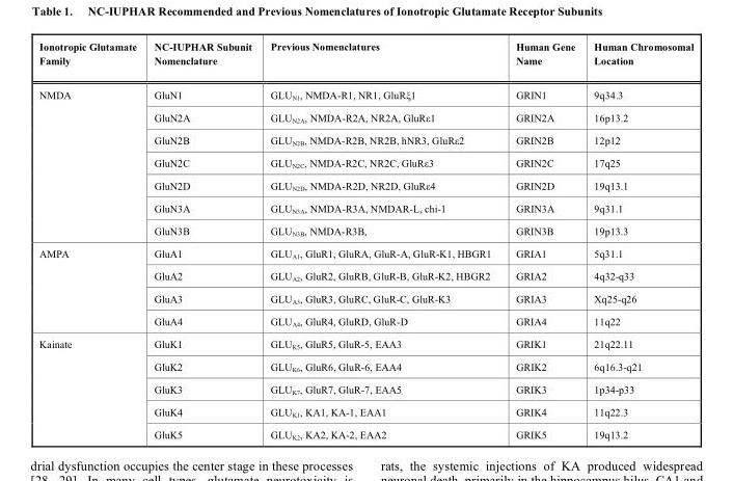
<table><thead><tr><td>Ionotropic Glutamate Family</td><td>NC-IUPHAR Subunit Nomenclature</td><td>Previous Nomenclatures</td><td>Human Gene Name</td><td>Human Chromosomal Location</td></tr></thead><tbody><tr><td rowspan="7">NMDA</td><td>GluN1</td><td>GLU<sub>N1</sub>, NMDA-R1, NR1, GluRξ1</td><td>GRIN1</td><td>9q34.3</td></tr><tr><td>GluN2A</td><td>GLU<sub>N2A</sub>, NMDA-R2A, NR2A, GluRε1</td><td>GRIN2A</td><td>16p13.2</td></tr><tr><td>GluN2B</td><td>GLU<sub>N2B</sub>, NMDA-R2B, NR2B, hNR3, GluRε2</td><td>GRIN2B</td><td>12p12</td></tr><tr><td>GluN2C</td><td>GLU<sub>N2C</sub>, NMDA-R2C, NR2C, GluRε3</td><td>GRIN2C</td><td>17q25</td></tr><tr><td>GluN2D</td><td>GLU<sub>N2D</sub>, NMDA-R2D, NR2D, GluRε4</td><td>GRIN2D</td><td>19q13.1</td></tr><tr><td>GluN3A</td><td>GLU<sub>N3A</sub>, NMDA-R3A, NMDAR-L, chi-1</td><td>GRIN3A</td><td>9q31.1</td></tr><tr><td>GluN3B</td><td>GLU<sub>N3B</sub>, NMDA-R3B,</td><td>GRIN3B</td><td>19p13.3</td></tr><tr><td rowspan="4">AMPA</td><td>GluA1</td><td>GLU<sub>A1</sub>, GluR1, GluRA, GluR-A, GluR-K1, HBGR1</td><td>GRIA1</td><td>5q31.1</td></tr><tr><td>GluA2</td><td>GLU<sub>A2</sub>, GluR2, GluRB, GluR-B, GluR-K2, HBGR2</td><td>GRIA2</td><td>4q32-q33</td></tr><tr><td>GluA3</td><td>GLU<sub>A3</sub>, GluR3, GluRC, GluR-C, GluR-K3</td><td>GRIA3</td><td>Xq25-q26</td></tr><tr><td>GluA4</td><td>GLU<sub>A4</sub>, GluR4, GluRD, GluR-D</td><td>GRIA4</td><td>11q22</td></tr><tr><td rowspan="5">Kainate</td><td>GluK1</td><td>GLU<sub>K5</sub>, GluR5, GluR-5, EAA3</td><td>GRIK1</td><td>21q22.11</td></tr><tr><td>GluK2</td><td>GLU<sub>K6</sub>, GluR6, GluR-6, EAA4</td><td>GRIK2</td><td>6q16.3-q21</td></tr><tr><td>GluK3</td><td>GLU<sub>K7</sub>, GluR7, GluR-7, EAA5</td><td>GRIK3</td><td>1p34-p33</td></tr><tr><td>GluK4</td><td>GLU<sub>K1</sub>, KA1, KA-1, EAA1</td><td>GRIK4</td><td>11q22.3</td></tr><tr><td>GluK5</td><td>GLU<sub>K2</sub>, KA2, KA-2, EAA2</td><td>GRIK5</td><td>19q13.2</td></tr></tbody></table>